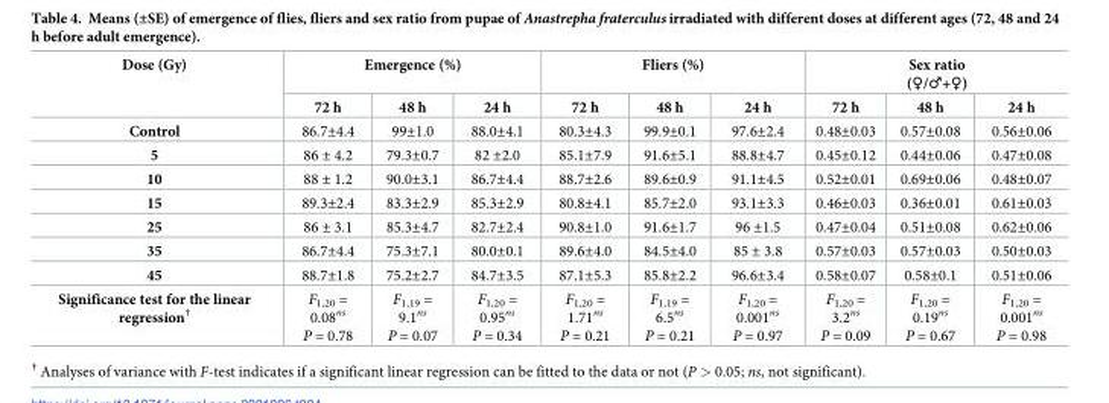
<table><thead><tr><td rowspan="2">Dose (Gy)</td><td colspan="3">Emergence (%)</td><td colspan="3">Fliers (%)</td><td colspan="3">Sex ratio (♀/♂+♀)</td></tr><tr><td>72 h</td><td>48 h</td><td>24 h</td><td>72 h</td><td>48 h</td><td>24 h</td><td>72 h</td><td>48 h</td><td>24 h</td></tr></thead><tbody><tr><td>Control</td><td>86.7±4.4</td><td>99±1.0</td><td>88.0±4.1</td><td>80.3±4.3</td><td>99.9±0.1</td><td>97.6±2.4</td><td>0.48±0.03</td><td>0.57±0.08</td><td>0.56±0.06</td></tr><tr><td>5</td><td>86 ± 4.2</td><td>79.3±0.7</td><td>82 ±2.0</td><td>85.1±7.9</td><td>91.6±5.1</td><td>88.8±4.7</td><td>0.45±0.12</td><td>0.44±0.06</td><td>0.47±0.08</td></tr><tr><td>10</td><td>88 ± 1.2</td><td>90.0±3.1</td><td>86.7±4.4</td><td>88.7±2.6</td><td>89.6±0.9</td><td>91.1±4.5</td><td>0.52±0.01</td><td>0.69±0.06</td><td>0.48±0.07</td></tr><tr><td>15</td><td>89.3±2.4</td><td>83.3±2.9</td><td>85.3±2.9</td><td>80.8±4.1</td><td>85.7±2.0</td><td>93.1±3.3</td><td>0.46±0.03</td><td>0.36±0.01</td><td>0.61±0.03</td></tr><tr><td>25</td><td>86 ± 3.1</td><td>85.3±4.7</td><td>82.7±2.4</td><td>90.8±1.0</td><td>91.6±1.7</td><td>96 ±1.5</td><td>0.47±0.04</td><td>0.51±0.08</td><td>0.62±0.06</td></tr><tr><td>35</td><td>86.7±4.4</td><td>75.3±7.1</td><td>80.0±0.1</td><td>89.6±4.0</td><td>84.5±4.0</td><td>85 ± 3.8</td><td>0.57±0.03</td><td>0.57±0.03</td><td>0.50±0.03</td></tr><tr><td>45</td><td>88.7±1.8</td><td>75.2±2.7</td><td>84.7±3.5</td><td>87.1±5.3</td><td>85.8±2.2</td><td>96.6±3.4</td><td>0.58±0.07</td><td>0.58±0.1</td><td>0.51±0.06</td></tr><tr><td>Significance test for the linear regression<sup>†</sup></td><td>F<sub>1,20</sub> = 0.08<sup>ns</sup> P = 0.78</td><td>F<sub>1,19</sub> = 9.1<sup>ns</sup> P = 0.07</td><td>F<sub>1,20</sub> = 0.95<sup>ns</sup> P = 0.34</td><td>F<sub>1,20</sub> = 1.71<sup>ns</sup> P = 0.21</td><td>F<sub>1,19</sub> = 6.5<sup>ns</sup> P = 0.21</td><td>F<sub>1,20</sub> = 0.001<sup>ns</sup> P = 0.97</td><td>F<sub>1,20</sub> = 3.2<sup>ns</sup> P = 0.09</td><td>F<sub>1,20</sub> = 0.19<sup>ns</sup> P = 0.67</td><td>F<sub>1,20</sub> = 0.001<sup>ns</sup> P = 0.98</td></tr></tbody></table>